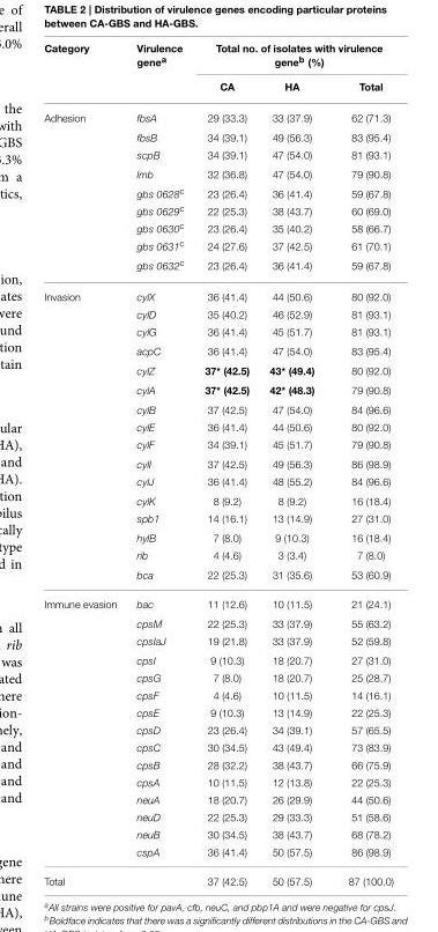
<table><thead><tr><td rowspan="2">Category</td><td rowspan="2">Virulence gene<sup>a</sup></td><td colspan="3">Total no. of isolates with virulence gene<sup>b</sup> (%)</td></tr><tr><td>CA</td><td>HA</td><td>Total</td></tr></thead><tbody><tr><td rowspan="9">Adhesion</td><td>fbsA</td><td>29 (33.3)</td><td>33 (37.9)</td><td>62 (71.3)</td></tr><tr><td>fbsB</td><td>34 (39.1)</td><td>49 (56.3)</td><td>83 (95.4)</td></tr><tr><td>scpB</td><td>34 (39.1)</td><td>47 (54.0)</td><td>81 (93.1)</td></tr><tr><td>lmb</td><td>32 (36.8)</td><td>47 (54.0)</td><td>79 (90.8)</td></tr><tr><td>gbs 0628<sup>c</sup></td><td>23 (26.4)</td><td>36 (41.4)</td><td>59 (67.8)</td></tr><tr><td>gbs 0629<sup>c</sup></td><td>22 (25.3)</td><td>38 (43.7)</td><td>60 (69.0)</td></tr><tr><td>gbs 0630<sup>c</sup></td><td>23 (26.4)</td><td>35 (40.2)</td><td>58 (66.7)</td></tr><tr><td>gbs 0631<sup>c</sup></td><td>24 (27.6)</td><td>37 (42.5)</td><td>61 (70.1)</td></tr><tr><td>gbs 0632<sup>c</sup></td><td>23 (26.4)</td><td>36 (41.4)</td><td>59 (67.8)</td></tr><tr><td rowspan="16">Invasion</td><td>cylX</td><td>36 (41.4)</td><td>44 (50.6)</td><td>80 (92.0)</td></tr><tr><td>cylD</td><td>35 (40.2)</td><td>46 (52.9)</td><td>81 (93.1)</td></tr><tr><td>cylG</td><td>36 (41.4)</td><td>45 (51.7)</td><td>81 (93.1)</td></tr><tr><td>acpC</td><td>36 (41.4)</td><td>47 (54.0)</td><td>83 (95.4)</td></tr><tr><td>cylZ</td><td>37* (42.5)</td><td>43* (49.4)</td><td>80 (92.0)</td></tr><tr><td>cylA</td><td>37* (42.5)</td><td>42* (48.3)</td><td>79 (90.8)</td></tr><tr><td>cylB</td><td>37 (42.5)</td><td>47 (54.0)</td><td>84 (96.6)</td></tr><tr><td>cylE</td><td>36 (41.4)</td><td>44 (50.6)</td><td>80 (92.0)</td></tr><tr><td>cylF</td><td>34 (39.1)</td><td>45 (51.7)</td><td>79 (90.8)</td></tr><tr><td>cylI</td><td>37 (42.5)</td><td>49 (56.3)</td><td>86 (98.9)</td></tr><tr><td>cylJ</td><td>36 (41.4)</td><td>48 (55.2)</td><td>84 (96.6)</td></tr><tr><td>cylK</td><td>8 (9.2)</td><td>8 (9.2)</td><td>16 (18.4)</td></tr><tr><td>spb1</td><td>14 (16.1)</td><td>13 (14.9)</td><td>27 (31.0)</td></tr><tr><td>hylB</td><td>7 (8.0)</td><td>9 (10.3)</td><td>16 (18.4)</td></tr><tr><td>rib</td><td>4 (4.6)</td><td>3 (3.4)</td><td>7 (8.0)</td></tr><tr><td>bca</td><td>22 (25.3)</td><td>31 (35.6)</td><td>53 (60.9)</td></tr><tr><td rowspan="15">Immune evasion</td><td>bac</td><td>11 (12.6)</td><td>10 (11.5)</td><td>21 (24.1)</td></tr><tr><td>cpsM</td><td>22 (25.3)</td><td>33 (37.9)</td><td>55 (63.2)</td></tr><tr><td>cpsIaJ</td><td>19 (21.8)</td><td>33 (37.9)</td><td>52 (59.8)</td></tr><tr><td>cpsI</td><td>9 (10.3)</td><td>18 (20.7)</td><td>27 (31.0)</td></tr><tr><td>cpsG</td><td>7 (8.0)</td><td>18 (20.7)</td><td>25 (28.7)</td></tr><tr><td>cpsF</td><td>4 (4.6)</td><td>10 (11.5)</td><td>14 (16.1)</td></tr><tr><td>cpsE</td><td>9 (10.3)</td><td>13 (14.9)</td><td>22 (25.3)</td></tr><tr><td>cpsD</td><td>23 (26.4)</td><td>34 (39.1)</td><td>57 (65.5)</td></tr><tr><td>cpsC</td><td>30 (34.5)</td><td>43 (49.4)</td><td>73 (83.9)</td></tr><tr><td>cpsB</td><td>28 (32.2)</td><td>38 (43.7)</td><td>66 (75.9)</td></tr><tr><td>cpsA</td><td>10 (11.5)</td><td>12 (13.8)</td><td>22 (25.3)</td></tr><tr><td>neuA</td><td>18 (20.7)</td><td>26 (29.9)</td><td>44 (50.6)</td></tr><tr><td>neuD</td><td>22 (25.3)</td><td>29 (33.3)</td><td>51 (58.6)</td></tr><tr><td>neuB</td><td>30 (34.5)</td><td>38 (43.7)</td><td>68 (78.2)</td></tr><tr><td>cspA</td><td>36 (41.4)</td><td>50 (57.5)</td><td>86 (98.9)</td></tr><tr><td>Total</td><td></td><td>37 (42.5)</td><td>50 (57.5)</td><td>87 (100.0)</td></tr></tbody></table>